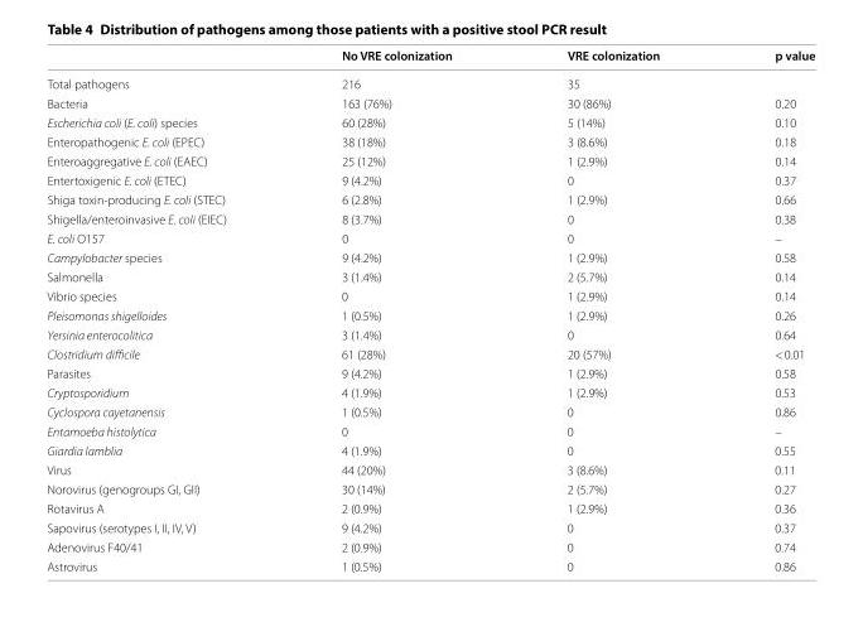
<table><thead><tr><td></td><td>No VRE colonization</td><td>VRE colonization</td><td>p value</td></tr></thead><tbody><tr><td>Total pathogens</td><td>216</td><td>35</td><td></td></tr><tr><td>Bacteria</td><td>163 (76%)</td><td>30 (86%)</td><td>0.20</td></tr><tr><td>Escherichia coli (E. coli) species</td><td>60 (28%)</td><td>5 (14%)</td><td>0.10</td></tr><tr><td>Enteropathogenic E. coli (EPEC)</td><td>38 (18%)</td><td>3 (8.6%)</td><td>0.18</td></tr><tr><td>Enteroaggregative E. coli (EAEC)</td><td>25 (12%)</td><td>1 (2.9%)</td><td>0.14</td></tr><tr><td>Entertoxigenic E. coli (ETEC)</td><td>9 (4.2%)</td><td>0</td><td>0.37</td></tr><tr><td>Shiga toxin-producing E. coli (STEC)</td><td>6 (2.8%)</td><td>1 (2.9%)</td><td>0.66</td></tr><tr><td>Shigella/enteroinvasive E. coli (EIEC)</td><td>8 (3.7%)</td><td>0</td><td>0.38</td></tr><tr><td>E. coli O157</td><td>0</td><td>0</td><td>–</td></tr><tr><td>Campylobacter species</td><td>9 (4.2%)</td><td>1 (2.9%)</td><td>0.58</td></tr><tr><td>Salmonella</td><td>3 (1.4%)</td><td>2 (5.7%)</td><td>0.14</td></tr><tr><td>Vibrio species</td><td>0</td><td>1 (2.9%)</td><td>0.14</td></tr><tr><td>Pleisomonas shigelloides</td><td>1 (0.5%)</td><td>1 (2.9%)</td><td>0.26</td></tr><tr><td>Yersinia enterocolitica</td><td>3 (1.4%)</td><td>0</td><td>0.64</td></tr><tr><td>Clostridium difficile</td><td>61 (28%)</td><td>20 (57%)</td><td>&lt; 0.01</td></tr><tr><td>Parasites</td><td>9 (4.2%)</td><td>1 (2.9%)</td><td>0.58</td></tr><tr><td>Cryptosporidium</td><td>4 (1.9%)</td><td>1 (2.9%)</td><td>0.53</td></tr><tr><td>Cyclospora cayetanensis</td><td>1 (0.5%)</td><td>0</td><td>0.86</td></tr><tr><td>Entamoeba histolytica</td><td>0</td><td>0</td><td>–</td></tr><tr><td>Giardia lamblia</td><td>4 (1.9%)</td><td>0</td><td>0.55</td></tr><tr><td>Virus</td><td>44 (20%)</td><td>3 (8.6%)</td><td>0.11</td></tr><tr><td>Norovirus (genogroups GI, GII)</td><td>30 (14%)</td><td>2 (5.7%)</td><td>0.27</td></tr><tr><td>Rotavirus A</td><td>2 (0.9%)</td><td>1 (2.9%)</td><td>0.36</td></tr><tr><td>Sapovirus (serotypes I, II, IV, V)</td><td>9 (4.2%)</td><td>0</td><td>0.37</td></tr><tr><td>Adenovirus F40/41</td><td>2 (0.9%)</td><td>0</td><td>0.74</td></tr><tr><td>Astrovirus</td><td>1 (0.5%)</td><td>0</td><td>0.86</td></tr></tbody></table>